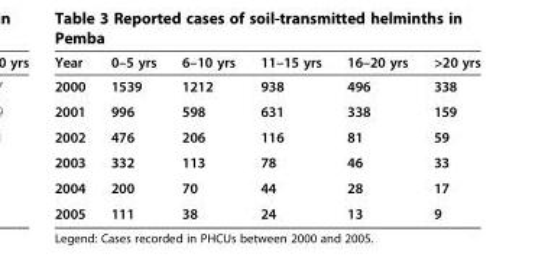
<table><thead><tr><td>Year</td><td>0–5 yrs</td><td>6–10 yrs</td><td>11–15 yrs</td><td>16–20 yrs</td><td>&gt;20 yrs</td></tr></thead><tbody><tr><td>2000</td><td>1539</td><td>1212</td><td>938</td><td>496</td><td>338</td></tr><tr><td>2001</td><td>996</td><td>598</td><td>631</td><td>338</td><td>159</td></tr><tr><td>2002</td><td>476</td><td>206</td><td>116</td><td>81</td><td>59</td></tr><tr><td>2003</td><td>332</td><td>113</td><td>78</td><td>46</td><td>33</td></tr><tr><td>2004</td><td>200</td><td>70</td><td>44</td><td>28</td><td>17</td></tr><tr><td>2005</td><td>111</td><td>38</td><td>24</td><td>13</td><td>9</td></tr></tbody></table>